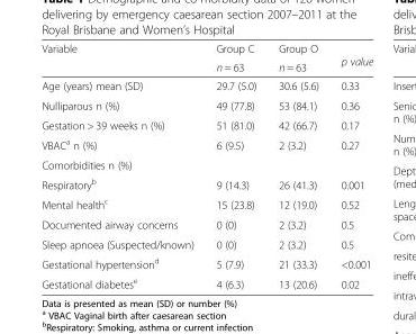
<table><thead><tr><td rowspan="2">Variable</td><td rowspan="2">Group C n = 63</td><td rowspan="2">Group O n = 63</td><td rowspan="2">p value</td></tr><tr></tr></thead><tbody><tr><td>Age (years) mean (SD)</td><td>29.7 (5.0)</td><td>30.6 (5.6)</td><td>0.33</td></tr><tr><td>Nulliparous n (%)</td><td>49 (77.8)</td><td>53 (84.1)</td><td>0.36</td></tr><tr><td>Gestation &gt; 39 weeks n (%)</td><td>51 (81.0)</td><td>42 (66.7)</td><td>0.17</td></tr><tr><td>VBAC<sup>a</sup> n (%)</td><td>6 (9.5)</td><td>2 (3.2)</td><td>0.27</td></tr><tr><td colspan="4">Comorbidities n (%)</td></tr><tr><td>Respiratory<sup>b</sup></td><td>9 (14.3)</td><td>26 (41.3)</td><td>0.001</td></tr><tr><td>Mental health<sup>c</sup></td><td>15 (23.8)</td><td>12 (19.0)</td><td>0.52</td></tr><tr><td>Documented airway concerns</td><td>0 (0)</td><td>2 (3.2)</td><td>0.5</td></tr><tr><td>Sleep apnoea (Suspected/known)</td><td>0 (0)</td><td>2 (3.2)</td><td>0.5</td></tr><tr><td>Gestational hypertension<sup>d</sup></td><td>5 (7.9)</td><td>21 (33.3)</td><td>&lt;0.001</td></tr><tr><td>Gestational diabetes<sup>e</sup></td><td>4 (6.3)</td><td>13 (20.6)</td><td>0.02</td></tr></tbody></table>